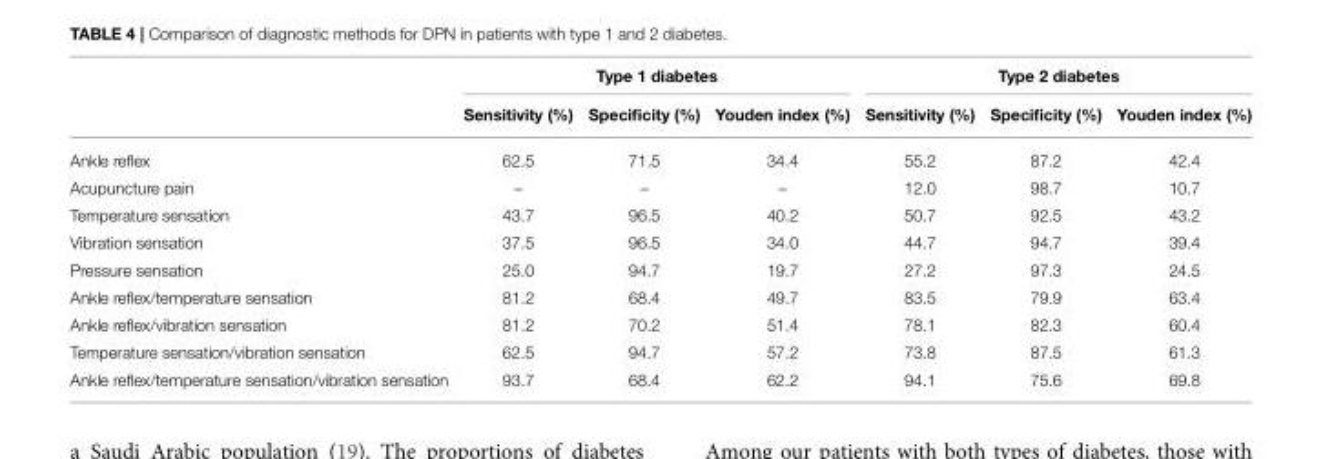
<table><thead><tr><td rowspan="2"></td><td colspan="3">Type 1 diabetes</td><td colspan="3">Type 2 diabetes</td></tr><tr><td>Sensitivity (%)</td><td>Specificity (%)</td><td>Youden index (%)</td><td>Sensitivity (%)</td><td>Specificity (%)</td><td>Youden index (%)</td></tr></thead><tbody><tr><td>Ankle reflex</td><td>62.5</td><td>71.5</td><td>34.4</td><td>55.2</td><td>87.2</td><td>42.4</td></tr><tr><td>Acupuncture pain</td><td>–</td><td>–</td><td>–</td><td>12.0</td><td>98.7</td><td>10.7</td></tr><tr><td>Temperature sensation</td><td>43.7</td><td>96.5</td><td>40.2</td><td>50.7</td><td>92.5</td><td>43.2</td></tr><tr><td>Vibration sensation</td><td>37.5</td><td>96.5</td><td>34.0</td><td>44.7</td><td>94.7</td><td>39.4</td></tr><tr><td>Pressure sensation</td><td>25.0</td><td>94.7</td><td>19.7</td><td>27.2</td><td>97.3</td><td>24.5</td></tr><tr><td>Ankle reflex/temperature sensation</td><td>81.2</td><td>68.4</td><td>49.7</td><td>83.5</td><td>79.9</td><td>63.4</td></tr><tr><td>Ankle reflex/vibration sensation</td><td>81.2</td><td>70.2</td><td>51.4</td><td>78.1</td><td>82.3</td><td>60.4</td></tr><tr><td>Temperature sensation/vibration sensation</td><td>62.5</td><td>94.7</td><td>57.2</td><td>73.8</td><td>87.5</td><td>61.3</td></tr><tr><td>Ankle reflex/temperature sensation/vibration sensation</td><td>93.7</td><td>68.4</td><td>62.2</td><td>94.1</td><td>75.6</td><td>69.8</td></tr></tbody></table>